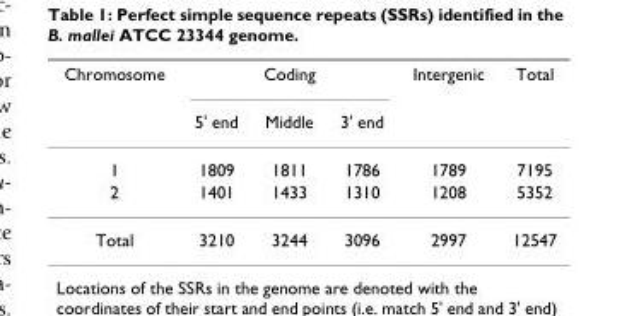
<table><thead><tr><td rowspan="2">Chromosome</td><td colspan="3">Coding</td><td rowspan="2">Intergenic</td><td rowspan="2">Total</td></tr><tr><td>5&#x27; end</td><td>Middle</td><td>3&#x27; end</td></tr></thead><tbody><tr><td>1</td><td>1809</td><td>1811</td><td>1786</td><td>1789</td><td>7195</td></tr><tr><td>2</td><td>1401</td><td>1433</td><td>1310</td><td>1208</td><td>5352</td></tr><tr><td>Total</td><td>3210</td><td>3244</td><td>3096</td><td>2997</td><td>12547</td></tr></tbody></table>